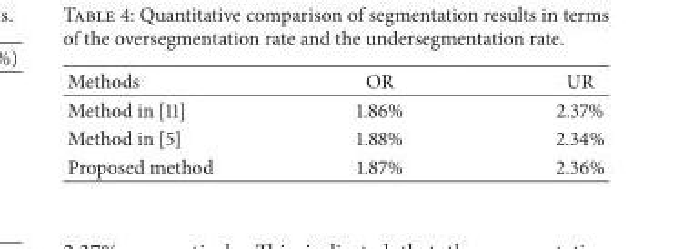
<table><thead><tr><td>Methods</td><td>OR</td><td>UR</td></tr></thead><tbody><tr><td>Method in [11]</td><td>1.86%</td><td>2.37%</td></tr><tr><td>Method in [5]</td><td>1.88%</td><td>2.34%</td></tr><tr><td>Proposed method</td><td>1.87%</td><td>2.36%</td></tr></tbody></table>